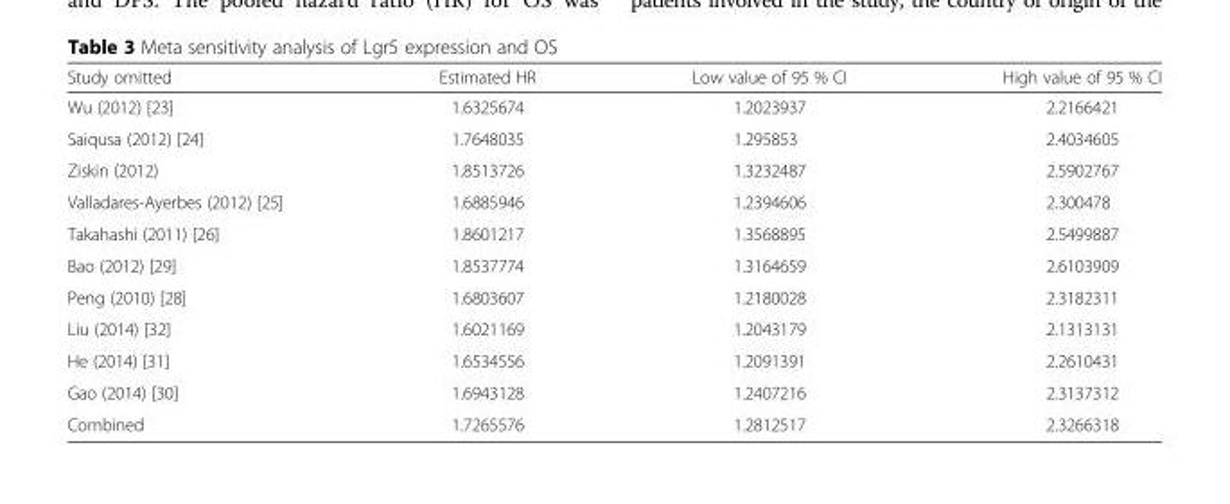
<table><thead><tr><td>Study omitted</td><td>Estimated HR</td><td>Low value of 95 % CI</td><td>High value of 95 % CI</td></tr></thead><tbody><tr><td>Wu (2012) [23]</td><td>1.6325674</td><td>1.2023937</td><td>2.2166421</td></tr><tr><td>Saiqusa (2012) [24]</td><td>1.7648035</td><td>1.295853</td><td>2.4034605</td></tr><tr><td>Ziskin (2012)</td><td>1.8513726</td><td>1.3232487</td><td>2.5902767</td></tr><tr><td>Valladares-Ayerbes (2012) [25]</td><td>1.6885946</td><td>1.2394606</td><td>2.300478</td></tr><tr><td>Takahashi (2011) [26]</td><td>1.8601217</td><td>1.3568895</td><td>2.5499887</td></tr><tr><td>Bao (2012) [29]</td><td>1.8537774</td><td>1.3164659</td><td>2.6103909</td></tr><tr><td>Peng (2010) [28]</td><td>1.6803607</td><td>1.2180028</td><td>2.3182311</td></tr><tr><td>Liu (2014) [32]</td><td>1.6021169</td><td>1.2043179</td><td>2.1313131</td></tr><tr><td>He (2014) [31]</td><td>1.6534556</td><td>1.2091391</td><td>2.2610431</td></tr><tr><td>Gao (2014) [30]</td><td>1.6943128</td><td>1.2407216</td><td>2.3137312</td></tr><tr><td>Combined</td><td>1.7265576</td><td>1.2812517</td><td>2.3266318</td></tr></tbody></table>